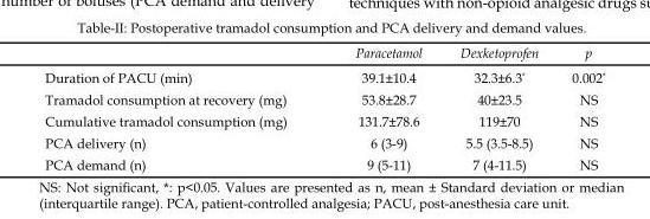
<table><thead><tr><td></td><td>Paracetamol</td><td>Dexketoprofen</td><td>p</td></tr></thead><tbody><tr><td>Duration of PACU (min)</td><td>39.1±10.4</td><td>32.3±6.3*</td><td>0.002*</td></tr><tr><td>Tramadol consumption at recovery (mg)</td><td>53.8±28.7</td><td>40±23.5</td><td>NS</td></tr><tr><td>Cumulative tramadol consumption (mg)</td><td>131.7±78.6</td><td>119±70</td><td>NS</td></tr><tr><td>PCA delivery (n)</td><td>6 (3-9)</td><td>5.5 (3.5-8.5)</td><td>NS</td></tr><tr><td>PCA demand (n)</td><td>9 (5-11)</td><td>7 (4-11.5)</td><td>NS</td></tr></tbody></table>